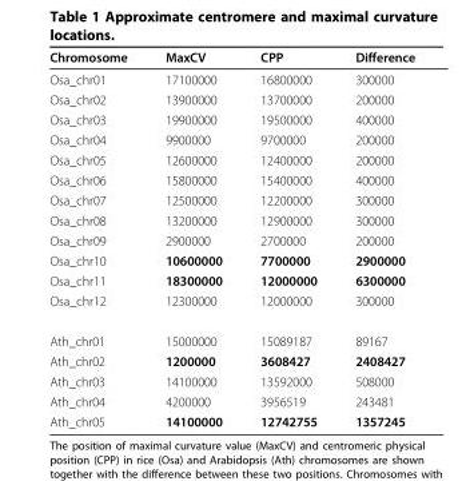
<table><thead><tr><td>Chromosome</td><td>MaxCV</td><td>CPP</td><td>Difference</td></tr></thead><tbody><tr><td>Osa_chr01</td><td>17100000</td><td>16800000</td><td>300000</td></tr><tr><td>Osa_chr02</td><td>13900000</td><td>13700000</td><td>200000</td></tr><tr><td>Osa_chr03</td><td>19900000</td><td>19500000</td><td>400000</td></tr><tr><td>Osa_chr04</td><td>9900000</td><td>9700000</td><td>200000</td></tr><tr><td>Osa_chr05</td><td>12600000</td><td>12400000</td><td>200000</td></tr><tr><td>Osa_chr06</td><td>15800000</td><td>15400000</td><td>400000</td></tr><tr><td>Osa_chr07</td><td>12500000</td><td>12200000</td><td>300000</td></tr><tr><td>Osa_chr08</td><td>13200000</td><td>12900000</td><td>300000</td></tr><tr><td>Osa_chr09</td><td>2900000</td><td>2700000</td><td>200000</td></tr><tr><td>Osa_chr10</td><td>10600000</td><td>7700000</td><td>2900000</td></tr><tr><td>Osa_chr11</td><td>18300000</td><td>12000000</td><td>6300000</td></tr><tr><td>Osa_chr12</td><td>12300000</td><td>12000000</td><td>300000</td></tr><tr><td>Ath_chr01</td><td>15000000</td><td>15089187</td><td>89167</td></tr><tr><td>Ath_chr02</td><td>1200000</td><td>3608427</td><td>2408427</td></tr><tr><td>Ath_chr03</td><td>14100000</td><td>13592000</td><td>508000</td></tr><tr><td>Ath_chr04</td><td>4200000</td><td>3956519</td><td>243481</td></tr><tr><td>Ath_chr05</td><td>14100000</td><td>12742755</td><td>1357245</td></tr></tbody></table>